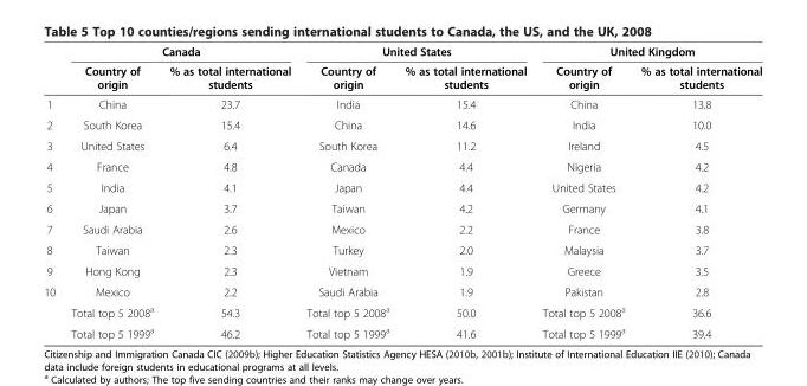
<table><thead><tr><td rowspan="2"></td><td colspan="2">Canada</td><td colspan="2">United States</td><td colspan="2">United Kingdom</td></tr><tr><td>Country of origin</td><td>% as total international students</td><td>Country of origin</td><td>% as total international students</td><td>Country of origin</td><td>% as total international students</td></tr></thead><tbody><tr><td>1</td><td>China</td><td>23.7</td><td>India</td><td>15.4</td><td>China</td><td>13.8</td></tr><tr><td>2</td><td>South Korea</td><td>15.4</td><td>China</td><td>14.6</td><td>India</td><td>10.0</td></tr><tr><td>3</td><td>United States</td><td>6.4</td><td>South Korea</td><td>11.2</td><td>Ireland</td><td>4.5</td></tr><tr><td>4</td><td>France</td><td>4.8</td><td>Canada</td><td>4.4</td><td>Nigeria</td><td>4.2</td></tr><tr><td>5</td><td>India</td><td>4.1</td><td>Japan</td><td>4.4</td><td>United States</td><td>4.2</td></tr><tr><td>6</td><td>Japan</td><td>3.7</td><td>Taiwan</td><td>4.2</td><td>Germany</td><td>4.1</td></tr><tr><td>7</td><td>Saudi Arabia</td><td>2.6</td><td>Mexico</td><td>2.2</td><td>France</td><td>3.8</td></tr><tr><td>8</td><td>Taiwan</td><td>2.3</td><td>Turkey</td><td>2.0</td><td>Malaysia</td><td>3.7</td></tr><tr><td>9</td><td>Hong Kong</td><td>2.3</td><td>Vietnam</td><td>1.9</td><td>Greece</td><td>3.5</td></tr><tr><td rowspan="3">10</td><td>Mexico</td><td>2.2</td><td>Saudi Arabia</td><td>1.9</td><td>Pakistan</td><td>2.8</td></tr><tr><td>Total top 5 2008<sup>a</sup></td><td>54.3</td><td>Total top 5 2008<sup>a</sup></td><td>50.0</td><td>Total top 5 2008<sup>a</sup></td><td>36.6</td></tr><tr><td>Total top 5 1999<sup>a</sup></td><td>46.2</td><td>Total top 5 1999<sup>a</sup></td><td>41.6</td><td>Total top 5 1999<sup>a</sup></td><td>39.4</td></tr></tbody></table>